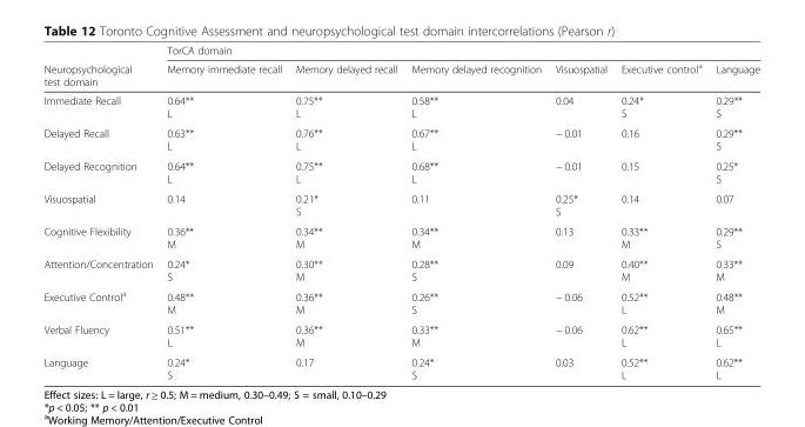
<table><thead><tr><td rowspan="2">Neuropsychological test domain</td><td colspan="6">TorCA domain</td></tr><tr><td>Memory immediate recall</td><td>Memory delayed recall</td><td>Memory delayed recognition</td><td>Visuospatial</td><td>Executive control<sup>a</sup></td><td>Language</td></tr></thead><tbody><tr><td>Immediate Recall</td><td>0.64** L</td><td>0.75** L</td><td>0.58** L</td><td>0.04</td><td>0.24* S</td><td>0.29** S</td></tr><tr><td>Delayed Recall</td><td>0.63** L</td><td>0.76** L</td><td>0.67** L</td><td>− 0.01</td><td>0.16</td><td>0.29** S</td></tr><tr><td>Delayed Recognition</td><td>0.64** L</td><td>0.75** L</td><td>0.68** L</td><td>− 0.01</td><td>0.15</td><td>0.25* S</td></tr><tr><td>Visuospatial</td><td>0.14</td><td>0.21* S</td><td>0.11</td><td>0.25* S</td><td>0.14</td><td>0.07</td></tr><tr><td>Cognitive Flexibility</td><td>0.36** M</td><td>0.34** M</td><td>0.34** M</td><td>0.13</td><td>0.33** M</td><td>0.29** S</td></tr><tr><td>Attention/Concentration</td><td>0.24* S</td><td>0.30** M</td><td>0.28** S</td><td>0.09</td><td>0.40** M</td><td>0.33** M</td></tr><tr><td>Executive Control<sup>a</sup></td><td>0.48** M</td><td>0.36** M</td><td>0.26** S</td><td>− 0.06</td><td>0.52** L</td><td>0.48** M</td></tr><tr><td>Verbal Fluency</td><td>0.51** L</td><td>0.36** M</td><td>0.33** M</td><td>− 0.06</td><td>0.62** L</td><td>0.65** L</td></tr><tr><td>Language</td><td>0.24* S</td><td>0.17</td><td>0.24* S</td><td>0.03</td><td>0.52** L</td><td>0.62** L</td></tr></tbody></table>